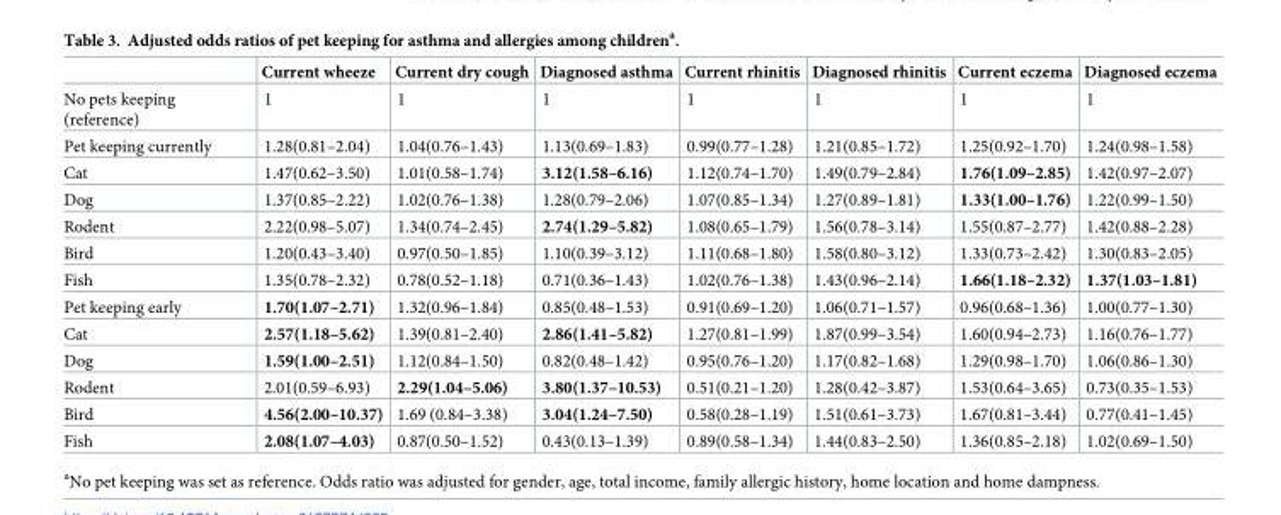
<table><thead><tr><td></td><td>Current wheeze</td><td>Current dry cough</td><td>Diagnosed asthma</td><td>Current rhinitis</td><td>Diagnosed rhinitis</td><td>Current eczema</td><td>Diagnosed eczema</td></tr></thead><tbody><tr><td>No pets keeping (reference)</td><td>1</td><td>1</td><td>1</td><td>1</td><td>1</td><td>1</td><td>1</td></tr><tr><td>Pet keeping currently</td><td>1.28(0.81–2.04)</td><td>1.04(0.76–1.43)</td><td>1.13(0.69–1.83)</td><td>0.99(0.77–1.28)</td><td>1.21(0.85–1.72)</td><td>1.25(0.92–1.70)</td><td>1.24(0.98–1.58)</td></tr><tr><td>Cat</td><td>1.47(0.62–3.50)</td><td>1.01(0.58–1.74)</td><td>3.12(1.58–6.16)</td><td>1.12(0.74–1.70)</td><td>1.49(0.79–2.84)</td><td>1.76(1.09–2.85)</td><td>1.42(0.97–2.07)</td></tr><tr><td>Dog</td><td>1.37(0.85–2.22)</td><td>1.02(0.76–1.38)</td><td>1.28(0.79–2.06)</td><td>1.07(0.85–1.34)</td><td>1.27(0.89–1.81)</td><td>1.33(1.00–1.76)</td><td>1.22(0.99–1.50)</td></tr><tr><td>Rodent</td><td>2.22(0.98–5.07)</td><td>1.34(0.74–2.45)</td><td>2.74(1.29–5.82)</td><td>1.08(0.65–1.79)</td><td>1.56(0.78–3.14)</td><td>1.55(0.87–2.77)</td><td>1.42(0.88–2.28)</td></tr><tr><td>Bird</td><td>1.20(0.43–3.40)</td><td>0.97(0.50–1.85)</td><td>1.10(0.39–3.12)</td><td>1.11(0.68–1.80)</td><td>1.58(0.80–3.12)</td><td>1.33(0.73–2.42)</td><td>1.30(0.83–2.05)</td></tr><tr><td>Fish</td><td>1.35(0.78–2.32)</td><td>0.78(0.52–1.18)</td><td>0.71(0.36–1.43)</td><td>1.02(0.76–1.38)</td><td>1.43(0.96–2.14)</td><td>1.66(1.18–2.32)</td><td>1.37(1.03–1.81)</td></tr><tr><td>Pet keeping early</td><td>1.70(1.07–2.71)</td><td>1.32(0.96–1.84)</td><td>0.85(0.48–1.53)</td><td>0.91(0.69–1.20)</td><td>1.06(0.71–1.57)</td><td>0.96(0.68–1.36)</td><td>1.00(0.77–1.30)</td></tr><tr><td>Cat</td><td>2.57(1.18–5.62)</td><td>1.39(0.81–2.40)</td><td>2.86(1.41–5.82)</td><td>1.27(0.81–1.99)</td><td>1.87(0.99–3.54)</td><td>1.60(0.94–2.73)</td><td>1.16(0.76–1.77)</td></tr><tr><td>Dog</td><td>1.59(1.00–2.51)</td><td>1.12(0.84–1.50)</td><td>0.82(0.48–1.42)</td><td>0.95(0.76–1.20)</td><td>1.17(0.82–1.68)</td><td>1.29(0.98–1.70)</td><td>1.06(0.86–1.30)</td></tr><tr><td>Rodent</td><td>2.01(0.59–6.93)</td><td>2.29(1.04–5.06)</td><td>3.80(1.37–10.53)</td><td>0.51(0.21–1.20)</td><td>1.28(0.42–3.87)</td><td>1.53(0.64–3.65)</td><td>0.73(0.35–1.53)</td></tr><tr><td>Bird</td><td>4.56(2.00–10.37)</td><td>1.69 (0.84–3.38)</td><td>3.04(1.24–7.50)</td><td>0.58(0.28–1.19)</td><td>1.51(0.61–3.73)</td><td>1.67(0.81–3.44)</td><td>0.77(0.41–1.45)</td></tr><tr><td>Fish</td><td>2.08(1.07–4.03)</td><td>0.87(0.50–1.52)</td><td>0.43(0.13–1.39)</td><td>0.89(0.58–1.34)</td><td>1.44(0.83–2.50)</td><td>1.36(0.85–2.18)</td><td>1.02(0.69–1.50)</td></tr></tbody></table>